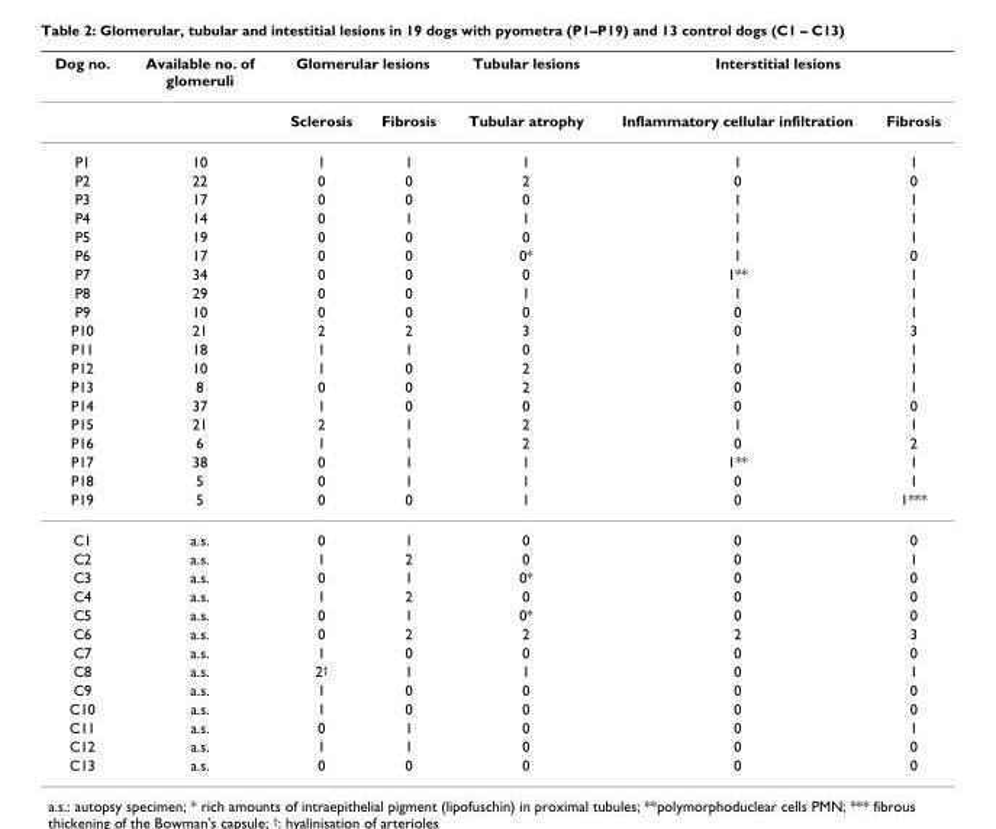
<table><thead><tr><td rowspan="2">Dog no.</td><td rowspan="2">Available no. of glomeruli</td><td colspan="2">Glomerular lesions</td><td rowspan="2">Tubular lesions Tubular atrophy</td><td colspan="2">Interstitial lesions</td></tr><tr><td>Sclerosis</td><td>Fibrosis</td><td>Inflammatory cellular infiltration</td><td>Fibrosis</td></tr></thead><tbody><tr><td>P1</td><td>10</td><td>1</td><td>1</td><td>1</td><td>1</td><td>1</td></tr><tr><td>P2</td><td>22</td><td>0</td><td>0</td><td>2</td><td>0</td><td>0</td></tr><tr><td>P3</td><td>17</td><td>0</td><td>0</td><td>0</td><td>1</td><td>1</td></tr><tr><td>P4</td><td>14</td><td>0</td><td>1</td><td>1</td><td>1</td><td>1</td></tr><tr><td>P5</td><td>19</td><td>0</td><td>0</td><td>0</td><td>1</td><td>1</td></tr><tr><td>P6</td><td>17</td><td>0</td><td>0</td><td>0*</td><td>1</td><td>0</td></tr><tr><td>P7</td><td>34</td><td>0</td><td>0</td><td>0</td><td>1**</td><td>1</td></tr><tr><td>P8</td><td>29</td><td>0</td><td>0</td><td>1</td><td>1</td><td>1</td></tr><tr><td>P9</td><td>10</td><td>0</td><td>0</td><td>0</td><td>0</td><td>1</td></tr><tr><td>P10</td><td>21</td><td>2</td><td>2</td><td>3</td><td>0</td><td>3</td></tr><tr><td>P11</td><td>18</td><td>1</td><td>1</td><td>0</td><td>1</td><td>1</td></tr><tr><td>P12</td><td>10</td><td>1</td><td>0</td><td>2</td><td>0</td><td>1</td></tr><tr><td>P13</td><td>8</td><td>0</td><td>0</td><td>2</td><td>0</td><td>1</td></tr><tr><td>P14</td><td>37</td><td>1</td><td>0</td><td>0</td><td>0</td><td>0</td></tr><tr><td>P15</td><td>21</td><td>2</td><td>1</td><td>2</td><td>1</td><td>1</td></tr><tr><td>P16</td><td>6</td><td>1</td><td>1</td><td>2</td><td>0</td><td>2</td></tr><tr><td>P17</td><td>38</td><td>0</td><td>1</td><td>1</td><td>1**</td><td>1</td></tr><tr><td>P18</td><td>5</td><td>0</td><td>1</td><td>1</td><td>0</td><td>1</td></tr><tr><td>P19</td><td>5</td><td>0</td><td>0</td><td>1</td><td>0</td><td>1***</td></tr><tr><td>C1</td><td>a.s.</td><td>0</td><td>1</td><td>0</td><td>0</td><td>0</td></tr><tr><td>C2</td><td>a.s.</td><td>1</td><td>2</td><td>0</td><td>0</td><td>1</td></tr><tr><td>C3</td><td>a.s.</td><td>0</td><td>1</td><td>0*</td><td>0</td><td>0</td></tr><tr><td>C4</td><td>a.s.</td><td>1</td><td>2</td><td>0</td><td>0</td><td>0</td></tr><tr><td>C5</td><td>a.s.</td><td>0</td><td>1</td><td>0*</td><td>0</td><td>0</td></tr><tr><td>C6</td><td>a.s.</td><td>0</td><td>2</td><td>2</td><td>2</td><td>3</td></tr><tr><td>C7</td><td>a.s.</td><td>1</td><td>0</td><td>0</td><td>0</td><td>0</td></tr><tr><td>C8</td><td>a.s.</td><td>2<sup>†</sup></td><td>1</td><td>1</td><td>0</td><td>1</td></tr><tr><td>C9</td><td>a.s.</td><td>1</td><td>0</td><td>0</td><td>0</td><td>0</td></tr><tr><td>C10</td><td>a.s.</td><td>1</td><td>0</td><td>0</td><td>0</td><td>0</td></tr><tr><td>C11</td><td>a.s.</td><td>0</td><td>1</td><td>0</td><td>0</td><td>1</td></tr><tr><td>C12</td><td>a.s.</td><td>1</td><td>1</td><td>0</td><td>0</td><td>0</td></tr><tr><td>C13</td><td>a.s.</td><td>0</td><td>0</td><td>0</td><td>0</td><td>0</td></tr></tbody></table>